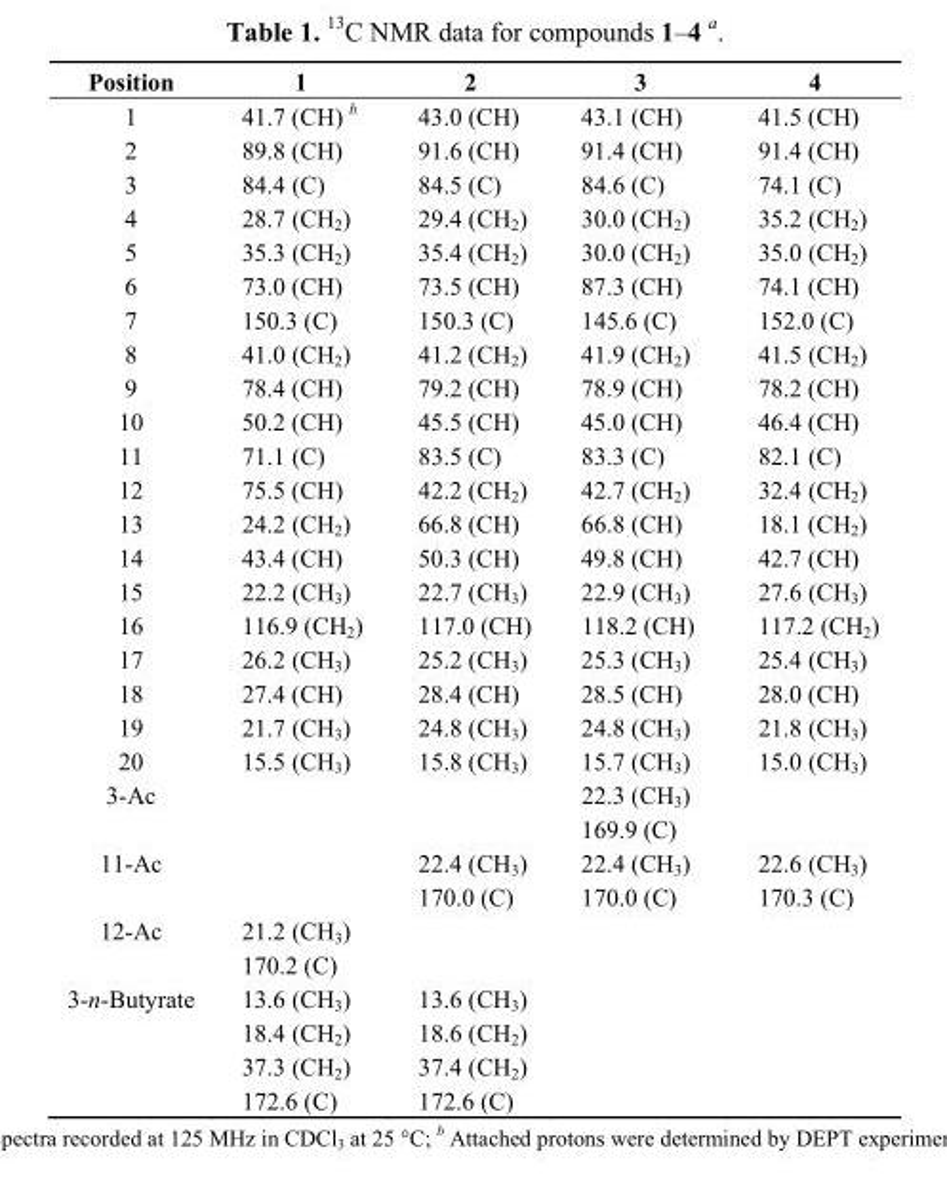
<table><thead><tr><td>Position</td><td>1</td><td>2</td><td>3</td><td>4</td></tr></thead><tbody><tr><td>1</td><td>41.7 (CH) <sup>b</sup></td><td>43.0 (CH)</td><td>43.1 (CH)</td><td>41.5 (CH)</td></tr><tr><td>2</td><td>89.8 (CH)</td><td>91.6 (CH)</td><td>91.4 (CH)</td><td>91.4 (CH)</td></tr><tr><td>3</td><td>84.4 (C)</td><td>84.5 (C)</td><td>84.6 (C)</td><td>74.1 (C)</td></tr><tr><td>4</td><td>28.7 (CH<sub>2</sub>)</td><td>29.4 (CH<sub>2</sub>)</td><td>30.0 (CH<sub>2</sub>)</td><td>35.2 (CH<sub>2</sub>)</td></tr><tr><td>5</td><td>35.3 (CH<sub>2</sub>)</td><td>35.4 (CH<sub>2</sub>)</td><td>30.0 (CH<sub>2</sub>)</td><td>35.0 (CH<sub>2</sub>)</td></tr><tr><td>6</td><td>73.0 (CH)</td><td>73.5 (CH)</td><td>87.3 (CH)</td><td>74.1 (CH)</td></tr><tr><td>7</td><td>150.3 (C)</td><td>150.3 (C)</td><td>145.6 (C)</td><td>152.0 (C)</td></tr><tr><td>8</td><td>41.0 (CH<sub>2</sub>)</td><td>41.2 (CH<sub>2</sub>)</td><td>41.9 (CH<sub>2</sub>)</td><td>41.5 (CH<sub>2</sub>)</td></tr><tr><td>9</td><td>78.4 (CH)</td><td>79.2 (CH)</td><td>78.9 (CH)</td><td>78.2 (CH)</td></tr><tr><td>10</td><td>50.2 (CH)</td><td>45.5 (CH)</td><td>45.0 (CH)</td><td>46.4 (CH)</td></tr><tr><td>11</td><td>71.1 (C)</td><td>83.5 (C)</td><td>83.3 (C)</td><td>82.1 (C)</td></tr><tr><td>12</td><td>75.5 (CH)</td><td>42.2 (CH<sub>2</sub>)</td><td>42.7 (CH<sub>2</sub>)</td><td>32.4 (CH<sub>2</sub>)</td></tr><tr><td>13</td><td>24.2 (CH<sub>2</sub>)</td><td>66.8 (CH)</td><td>66.8 (CH)</td><td>18.1 (CH<sub>2</sub>)</td></tr><tr><td>14</td><td>43.4 (CH)</td><td>50.3 (CH)</td><td>49.8 (CH)</td><td>42.7 (CH)</td></tr><tr><td>15</td><td>22.2 (CH<sub>3</sub>)</td><td>22.7 (CH<sub>3</sub>)</td><td>22.9 (CH<sub>3</sub>)</td><td>27.6 (CH<sub>3</sub>)</td></tr><tr><td>16</td><td>116.9 (CH<sub>2</sub>)</td><td>117.0 (CH)</td><td>118.2 (CH)</td><td>117.2 (CH<sub>2</sub>)</td></tr><tr><td>17</td><td>26.2 (CH<sub>3</sub>)</td><td>25.2 (CH<sub>3</sub>)</td><td>25.3 (CH<sub>3</sub>)</td><td>25.4 (CH<sub>3</sub>)</td></tr><tr><td>18</td><td>27.4 (CH)</td><td>28.4 (CH)</td><td>28.5 (CH)</td><td>28.0 (CH)</td></tr><tr><td>19</td><td>21.7 (CH<sub>3</sub>)</td><td>24.8 (CH<sub>3</sub>)</td><td>24.8 (CH<sub>3</sub>)</td><td>21.8 (CH<sub>3</sub>)</td></tr><tr><td>20</td><td>15.5 (CH<sub>3</sub>)</td><td>15.8 (CH<sub>3</sub>)</td><td>15.7 (CH<sub>3</sub>)</td><td>15.0 (CH<sub>3</sub>)</td></tr><tr><td rowspan="2">3-Ac</td><td></td><td></td><td>22.3 (CH<sub>3</sub>)</td><td></td></tr><tr><td></td><td></td><td>169.9 (C)</td><td></td></tr><tr><td rowspan="2">11-Ac</td><td></td><td>22.4 (CH<sub>3</sub>)</td><td>22.4 (CH<sub>3</sub>)</td><td>22.6 (CH<sub>3</sub>)</td></tr><tr><td></td><td>170.0 (C)</td><td>170.0 (C)</td><td>170.3 (C)</td></tr><tr><td rowspan="2">12-Ac</td><td>21.2 (CH<sub>3</sub>)</td><td></td><td></td><td></td></tr><tr><td>170.2 (C)</td><td></td><td></td><td></td></tr><tr><td rowspan="4">3-n-Butyrate</td><td>13.6 (CH<sub>3</sub>)</td><td>13.6 (CH<sub>3</sub>)</td><td></td><td></td></tr><tr><td>18.4 (CH<sub>2</sub>)</td><td>18.6 (CH<sub>2</sub>)</td><td></td><td></td></tr><tr><td>37.3 (CH<sub>2</sub>)</td><td>37.4 (CH<sub>2</sub>)</td><td></td><td></td></tr><tr><td>172.6 (C)</td><td>172.6 (C)</td><td></td><td></td></tr></tbody></table>